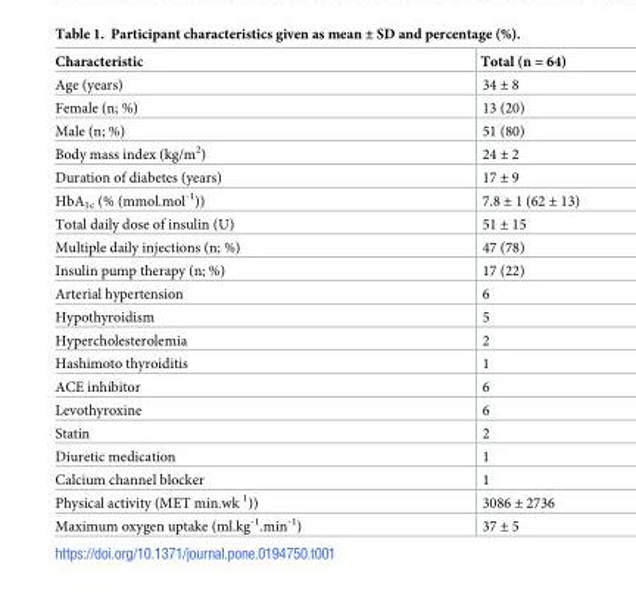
<table><thead><tr><td>Characteristic</td><td>Total (n = 64)</td></tr></thead><tbody><tr><td>Age (years)</td><td>34 ± 8</td></tr><tr><td>Female (n; %)</td><td>13 (20)</td></tr><tr><td>Male (n; %)</td><td>51 (80)</td></tr><tr><td>Body mass index (kg/m<sup>2</sup>)</td><td>24 ± 2</td></tr><tr><td>Duration of diabetes (years)</td><td>17 ± 9</td></tr><tr><td>HbA<sub>1c</sub> (% (mmol.mol<sup>-1</sup>))</td><td>7.8 ± 1 (62 ± 13)</td></tr><tr><td>Total daily dose of insulin (U)</td><td>51 ± 15</td></tr><tr><td>Multiple daily injections (n; %)</td><td>47 (78)</td></tr><tr><td>Insulin pump therapy (n; %)</td><td>17 (22)</td></tr><tr><td>Arterial hypertension</td><td>6</td></tr><tr><td>Hypothyroidism</td><td>5</td></tr><tr><td>Hypercholesterolemia</td><td>2</td></tr><tr><td>Hashimoto thyroiditis</td><td>1</td></tr><tr><td>ACE inhibitor</td><td>6</td></tr><tr><td>Levothyroxine</td><td>6</td></tr><tr><td>Statin</td><td>2</td></tr><tr><td>Diuretic medication</td><td>1</td></tr><tr><td>Calcium channel blocker</td><td>1</td></tr><tr><td>Physical activity (MET min.wk <sup>1</sup>))</td><td>3086 ± 2736</td></tr><tr><td>Maximum oxygen uptake (ml.kg<sup>-1</sup>.min<sup>-1</sup>)</td><td>37 ± 5</td></tr></tbody></table>